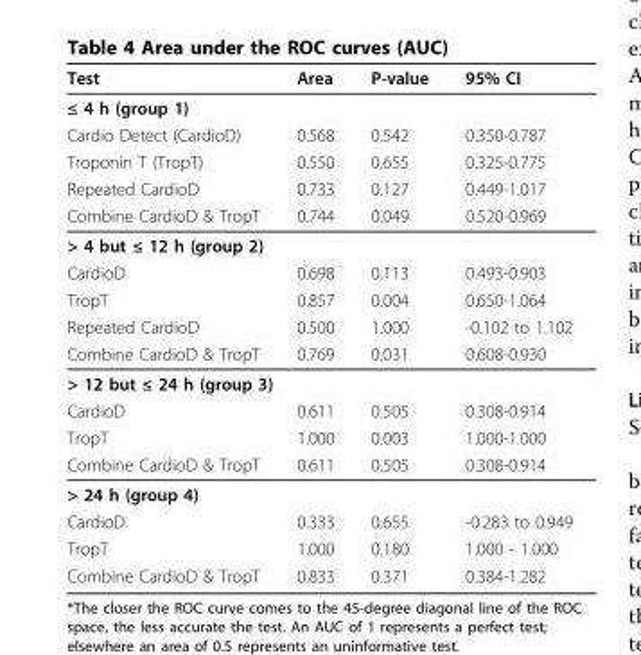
<table><thead><tr><td>Test</td><td>Area</td><td>P-value</td><td>95% CI</td></tr></thead><tbody><tr><td colspan="4">≤ 4 h (group 1)</td></tr><tr><td>Cardio Detect (CardioD)</td><td>0.568</td><td>0.542</td><td>0.350-0.787</td></tr><tr><td>Troponin T (TropT)</td><td>0.550</td><td>0.655</td><td>0.325-0.775</td></tr><tr><td>Repeated CardioD</td><td>0.733</td><td>0.127</td><td>0.449-1.017</td></tr><tr><td>Combine CardioD &amp; TropT</td><td>0.744</td><td>0.049</td><td>0.520-0.969</td></tr><tr><td colspan="4">&gt; 4 but ≤ 12 h (group 2)</td></tr><tr><td>CardioD</td><td>0.698</td><td>0.113</td><td>0.493-0.903</td></tr><tr><td>TropT</td><td>0.857</td><td>0.004</td><td>0.650-1.064</td></tr><tr><td>Repeated CardioD</td><td>0.500</td><td>1.000</td><td>-0.102 to 1.102</td></tr><tr><td>Combine CardioD &amp; TropT</td><td>0.769</td><td>0.031</td><td>0.608-0.930</td></tr><tr><td colspan="4">&gt; 12 but ≤ 24 h (group 3)</td></tr><tr><td>CardioD</td><td>0.611</td><td>0.505</td><td>0.308-0.914</td></tr><tr><td>TropT</td><td>1.000</td><td>0.003</td><td>1.000-1.000</td></tr><tr><td>Combine CardioD &amp; TropT</td><td>0.611</td><td>0.505</td><td>0.308-0.914</td></tr><tr><td colspan="4">&gt; 24 h (group 4)</td></tr><tr><td>CardioD</td><td>0.333</td><td>0.655</td><td>-0.283 to 0.949</td></tr><tr><td>TropT</td><td>1.000</td><td>0.180</td><td>1.000 - 1.000</td></tr><tr><td>Combine CardioD &amp; TropT</td><td>0.833</td><td>0.371</td><td>0.384-1.282</td></tr></tbody></table>